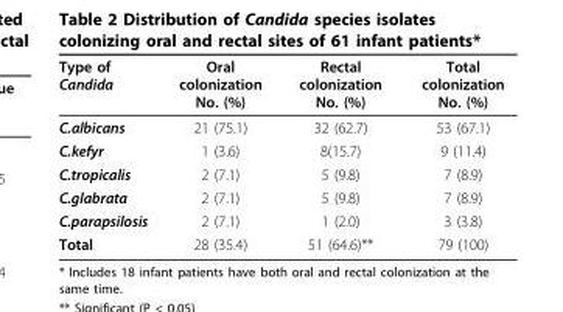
<table><thead><tr><td>Type of Candida</td><td>Oral colonization No. (%)</td><td>Rectal colonization No. (%)</td><td>Total colonization No. (%)</td></tr></thead><tbody><tr><td>C.albicans</td><td>21 (75.1)</td><td>32 (62.7)</td><td>53 (67.1)</td></tr><tr><td>C.kefyr</td><td>1 (3.6)</td><td>8(15.7)</td><td>9 (11.4)</td></tr><tr><td>C.tropicalis</td><td>2 (7.1)</td><td>5 (9.8)</td><td>7 (8.9)</td></tr><tr><td>C.glabrata</td><td>2 (7.1)</td><td>5 (9.8)</td><td>7 (8.9)</td></tr><tr><td>C.parapsilosis</td><td>2 (7.1)</td><td>1 (2.0)</td><td>3 (3.8)</td></tr><tr><td>Total</td><td>28 (35.4)</td><td>51 (64.6)**</td><td>79 (100)</td></tr></tbody></table>